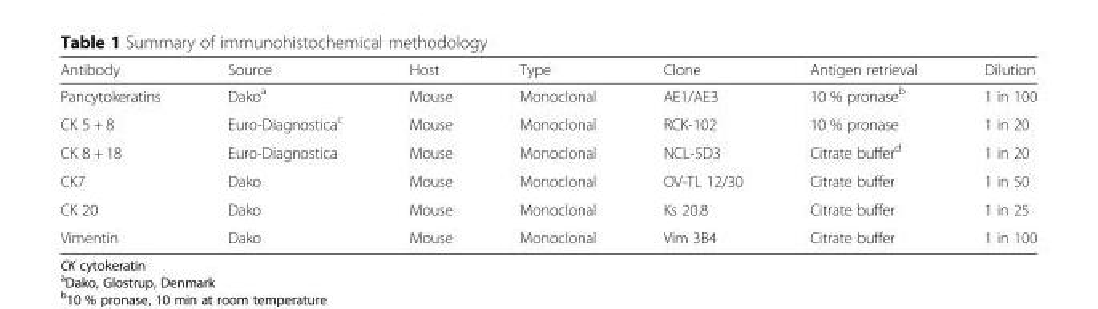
<table><thead><tr><td>Antibody</td><td>Source</td><td>Host</td><td>Type</td><td>Clone</td><td>Antigen retrieval</td><td>Dilution</td></tr></thead><tbody><tr><td>Pancytokeratins</td><td>Dako<sup>a</sup></td><td>Mouse</td><td>Monoclonal</td><td>AE1/AE3</td><td>10 % pronase<sup>b</sup></td><td>1 in 100</td></tr><tr><td>CK 5 + 8</td><td>Euro-Diagnostica<sup>c</sup></td><td>Mouse</td><td>Monoclonal</td><td>RCK-102</td><td>10 % pronase</td><td>1 in 20</td></tr><tr><td>CK 8 + 18</td><td>Euro-Diagnostica</td><td>Mouse</td><td>Monoclonal</td><td>NCL-5D3</td><td>Citrate buffer<sup>d</sup></td><td>1 in 20</td></tr><tr><td>CK7</td><td>Dako</td><td>Mouse</td><td>Monoclonal</td><td>OV-TL 12/30</td><td>Citrate buffer</td><td>1 in 50</td></tr><tr><td>CK 20</td><td>Dako</td><td>Mouse</td><td>Monoclonal</td><td>Ks 20.8</td><td>Citrate buffer</td><td>1 in 25</td></tr><tr><td>Vimentin</td><td>Dako</td><td>Mouse</td><td>Monoclonal</td><td>Vim 3B4</td><td>Citrate buffer</td><td>1 in 100</td></tr></tbody></table>